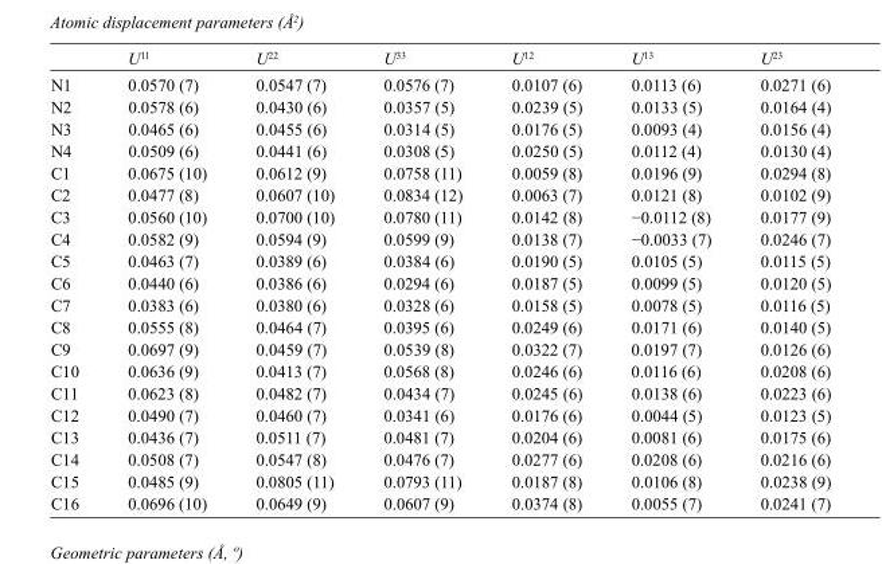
<table><thead><tr><td></td><td>U<sup>11</sup></td><td>U<sup>22</sup></td><td>U<sup>33</sup></td><td>U<sup>12</sup></td><td>U<sup>13</sup></td><td>U<sup>23</sup></td></tr></thead><tbody><tr><td>N1</td><td>0.0570 (7)</td><td>0.0547 (7)</td><td>0.0576 (7)</td><td>0.0107 (6)</td><td>0.0113 (6)</td><td>0.0271 (6)</td></tr><tr><td>N2</td><td>0.0578 (6)</td><td>0.0430 (6)</td><td>0.0357 (5)</td><td>0.0239 (5)</td><td>0.0133 (5)</td><td>0.0164 (4)</td></tr><tr><td>N3</td><td>0.0465 (6)</td><td>0.0455 (6)</td><td>0.0314 (5)</td><td>0.0176 (5)</td><td>0.0093 (4)</td><td>0.0156 (4)</td></tr><tr><td>N4</td><td>0.0509 (6)</td><td>0.0441 (6)</td><td>0.0308 (5)</td><td>0.0250 (5)</td><td>0.0112 (4)</td><td>0.0130 (4)</td></tr><tr><td>C1</td><td>0.0675 (10)</td><td>0.0612 (9)</td><td>0.0758 (11)</td><td>0.0059 (8)</td><td>0.0196 (9)</td><td>0.0294 (8)</td></tr><tr><td>C2</td><td>0.0477 (8)</td><td>0.0607 (10)</td><td>0.0834 (12)</td><td>0.0063 (7)</td><td>0.0121 (8)</td><td>0.0102 (9)</td></tr><tr><td>C3</td><td>0.0560 (10)</td><td>0.0700 (10)</td><td>0.0780 (11)</td><td>0.0142 (8)</td><td>−0.0112 (8)</td><td>0.0177 (9)</td></tr><tr><td>C4</td><td>0.0582 (9)</td><td>0.0594 (9)</td><td>0.0599 (9)</td><td>0.0138 (7)</td><td>−0.0033 (7)</td><td>0.0246 (7)</td></tr><tr><td>C5</td><td>0.0463 (7)</td><td>0.0389 (6)</td><td>0.0384 (6)</td><td>0.0190 (5)</td><td>0.0105 (5)</td><td>0.0115 (5)</td></tr><tr><td>C6</td><td>0.0440 (6)</td><td>0.0386 (6)</td><td>0.0294 (6)</td><td>0.0187 (5)</td><td>0.0099 (5)</td><td>0.0120 (5)</td></tr><tr><td>C7</td><td>0.0383 (6)</td><td>0.0380 (6)</td><td>0.0328 (6)</td><td>0.0158 (5)</td><td>0.0078 (5)</td><td>0.0116 (5)</td></tr><tr><td>C8</td><td>0.0555 (8)</td><td>0.0464 (7)</td><td>0.0395 (6)</td><td>0.0249 (6)</td><td>0.0171 (6)</td><td>0.0140 (5)</td></tr><tr><td>C9</td><td>0.0697 (9)</td><td>0.0459 (7)</td><td>0.0539 (8)</td><td>0.0322 (7)</td><td>0.0197 (7)</td><td>0.0126 (6)</td></tr><tr><td>C10</td><td>0.0636 (9)</td><td>0.0413 (7)</td><td>0.0568 (8)</td><td>0.0246 (6)</td><td>0.0116 (6)</td><td>0.0208 (6)</td></tr><tr><td>C11</td><td>0.0623 (8)</td><td>0.0482 (7)</td><td>0.0434 (7)</td><td>0.0245 (6)</td><td>0.0138 (6)</td><td>0.0223 (6)</td></tr><tr><td>C12</td><td>0.0490 (7)</td><td>0.0460 (7)</td><td>0.0341 (6)</td><td>0.0176 (6)</td><td>0.0044 (5)</td><td>0.0123 (5)</td></tr><tr><td>C13</td><td>0.0436 (7)</td><td>0.0511 (7)</td><td>0.0481 (7)</td><td>0.0204 (6)</td><td>0.0081 (6)</td><td>0.0175 (6)</td></tr><tr><td>C14</td><td>0.0508 (7)</td><td>0.0547 (8)</td><td>0.0476 (7)</td><td>0.0277 (6)</td><td>0.0208 (6)</td><td>0.0216 (6)</td></tr><tr><td>C15</td><td>0.0485 (9)</td><td>0.0805 (11)</td><td>0.0793 (11)</td><td>0.0187 (8)</td><td>0.0106 (8)</td><td>0.0238 (9)</td></tr><tr><td>C16</td><td>0.0696 (10)</td><td>0.0649 (9)</td><td>0.0607 (9)</td><td>0.0374 (8)</td><td>0.0055 (7)</td><td>0.0241 (7)</td></tr></tbody></table>